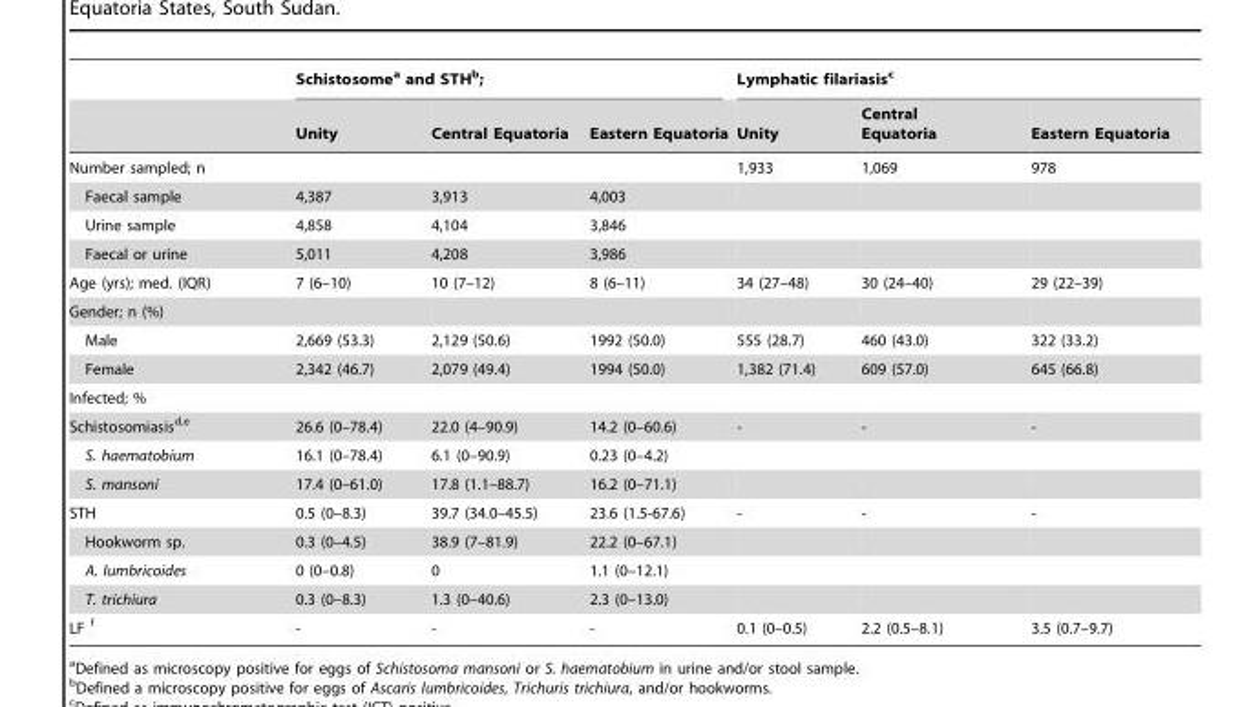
<table><thead><tr><td rowspan="2"></td><td colspan="3">Schistosome<sup>a</sup> and STH<sup>b</sup>;</td><td colspan="3">Lymphatic filariasis<sup>c</sup></td></tr><tr><td>Unity</td><td>Central Equatoria</td><td>Eastern Equatoria</td><td>Unity</td><td>Central Equatoria</td><td>Eastern Equatoria</td></tr></thead><tbody><tr><td>Number sampled; n</td><td></td><td></td><td></td><td>1,933</td><td>1,069</td><td>978</td></tr><tr><td>Faecal sample</td><td>4,387</td><td>3,913</td><td>4,003</td><td></td><td></td><td></td></tr><tr><td>Urine sample</td><td>4,858</td><td>4,104</td><td>3,846</td><td></td><td></td><td></td></tr><tr><td>Faecal or urine</td><td>5,011</td><td>4,208</td><td>3,986</td><td></td><td></td><td></td></tr><tr><td>Age (yrs); med. (IQR)</td><td>7 (6–10)</td><td>10 (7–12)</td><td>8 (6–11)</td><td>34 (27–48)</td><td>30 (24–40)</td><td>29 (22–39)</td></tr><tr><td colspan="7">Gender; n (%)</td></tr><tr><td>Male</td><td>2,669 (53.3)</td><td>2,129 (50.6)</td><td>1992 (50.0)</td><td>555 (28.7)</td><td>460 (43.0)</td><td>322 (33.2)</td></tr><tr><td>Female</td><td>2,342 (46.7)</td><td>2,079 (49.4)</td><td>1994 (50.0)</td><td>1,382 (71.4)</td><td>609 (57.0)</td><td>645 (66.8)</td></tr><tr><td colspan="7">Infected; %</td></tr><tr><td>Schistosomiasisd,e</td><td>26.6 (0–78.4)</td><td>22.0 (4–90.9)</td><td>14.2 (0–60.6)</td><td>-</td><td>-</td><td>-</td></tr><tr><td>S. haematobium</td><td>16.1 (0–78.4)</td><td>6.1 (0–90.9)</td><td>0.23 (0–4.2)</td><td></td><td></td><td></td></tr><tr><td>S. mansoni</td><td>17.4 (0–61.0)</td><td>17.8 (1.1–88.7)</td><td>16.2 (0–71.1)</td><td></td><td></td><td></td></tr><tr><td>STH</td><td>0.5 (0–8.3)</td><td>39.7 (34.0–45.5)</td><td>23.6 (1.5-67.6)</td><td>-</td><td>-</td><td>-</td></tr><tr><td>Hookworm sp.</td><td>0.3 (0–4.5)</td><td>38.9 (7–81.9)</td><td>22.2 (0–67.1)</td><td></td><td></td><td></td></tr><tr><td>A. lumbricoides</td><td>0 (0–0.8)</td><td>0</td><td>1.1 (0–12.1)</td><td></td><td></td><td></td></tr><tr><td>T. trichiura</td><td>0.3 (0–8.3)</td><td>1.3 (0–40.6)</td><td>2.3 (0–13.0)</td><td></td><td></td><td></td></tr><tr><td>LF f</td><td>-</td><td>-</td><td>-</td><td>0.1 (0–0.5)</td><td>2.2 (0.5–8.1)</td><td>3.5 (0.7–9.7)</td></tr></tbody></table>